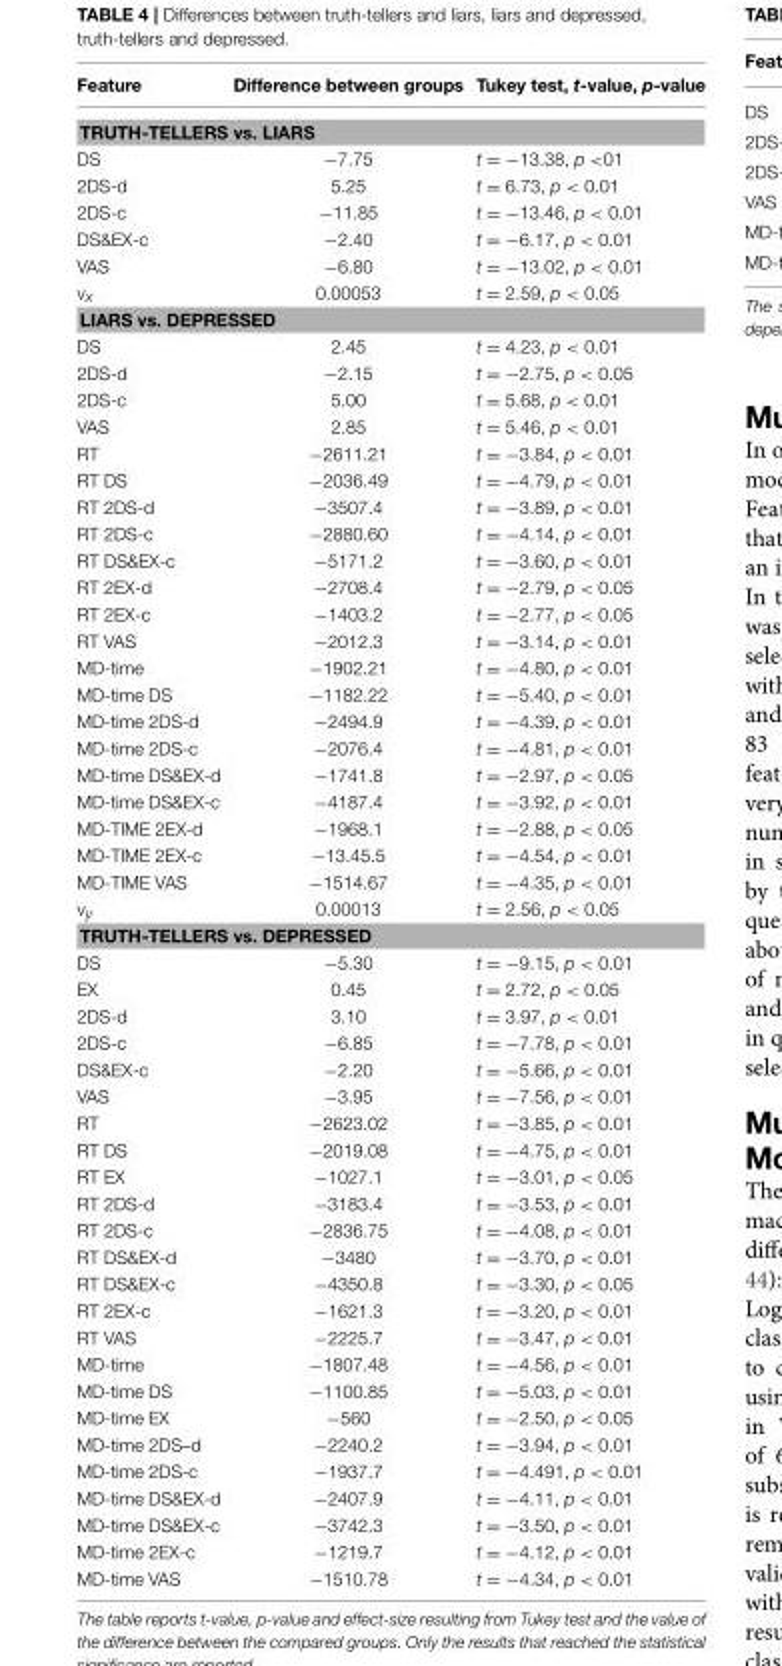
<table><thead><tr><td>Feature</td><td>Difference between groups</td><td>Tukey test, t-value, p-value</td></tr></thead><tbody><tr><td colspan="3">TRUTH-TELLERS vs. LIARS</td></tr><tr><td>DS</td><td>−7.75</td><td>t = −13.38, p &lt;01</td></tr><tr><td>2DS-d</td><td>5.25</td><td>t = 6.73, p &lt; 0.01</td></tr><tr><td>2DS-c</td><td>−11.85</td><td>t = −13.46, p &lt; 0.01</td></tr><tr><td>DS&amp;EX-c</td><td>−2.40</td><td>t = −6.17, p &lt; 0.01</td></tr><tr><td>VAS</td><td>−6.80</td><td>t = −13.02, p &lt; 0.01</td></tr><tr><td>vx</td><td>0.00053</td><td>t = 2.59, p &lt; 0.05</td></tr><tr><td colspan="3">LIARS vs. DEPRESSED</td></tr><tr><td>DS</td><td>2.45</td><td>t = 4.23, p &lt; 0.01</td></tr><tr><td>2DS-d</td><td>−2.15</td><td>t = −2.75, p &lt; 0.05</td></tr><tr><td>2DS-c</td><td>5.00</td><td>t = 5.68, p &lt; 0.01</td></tr><tr><td>VAS</td><td>2.85</td><td>t = 5.46, p &lt; 0.01</td></tr><tr><td>RT</td><td>−2611.21</td><td>t = −3.84, p &lt; 0.01</td></tr><tr><td>RT DS</td><td>−2036.49</td><td>t = −4.79, p &lt; 0.01</td></tr><tr><td>RT 2DS-d</td><td>−3507.4</td><td>t = −3.89, p &lt; 0.01</td></tr><tr><td>RT 2DS-c</td><td>−2880.60</td><td>t = −4.14, p &lt; 0.01</td></tr><tr><td>RT DS&amp;EX-c</td><td>−5171.2</td><td>t = −3.60, p &lt; 0.01</td></tr><tr><td>RT 2EX-d</td><td>−2708.4</td><td>t = −2.79, p &lt; 0.05</td></tr><tr><td>RT 2EX-c</td><td>−1403.2</td><td>t = −2.77, p &lt; 0.05</td></tr><tr><td>RT VAS</td><td>−2012.3</td><td>t = −3.14, p &lt; 0.01</td></tr><tr><td>MD-time</td><td>−1902.21</td><td>t = −4.80, p &lt; 0.01</td></tr><tr><td>MD-time DS</td><td>−1182.22</td><td>t = −5.40, p &lt; 0.01</td></tr><tr><td>MD-time 2DS-d</td><td>−2494.9</td><td>t = −4.39, p &lt; 0.01</td></tr><tr><td>MD-time 2DS-c</td><td>−2076.4</td><td>t = −4.81, p &lt; 0.01</td></tr><tr><td>MD-time DS&amp;EX-d</td><td>−1741.8</td><td>t = −2.97, p &lt; 0.05</td></tr><tr><td>MD-time DS&amp;EX-c</td><td>−4187.4</td><td>t = −3.92, p &lt; 0.01</td></tr><tr><td>MD-TIME 2EX-d</td><td>−1968.1</td><td>t = −2.88, p &lt; 0.05</td></tr><tr><td>MD-TIME 2EX-c</td><td>−13.45.5</td><td>t = −4.54, p &lt; 0.01</td></tr><tr><td>MD-TIME VAS</td><td>−1514.67</td><td>t = −4.35, p &lt; 0.01</td></tr><tr><td>vy</td><td>0.00013</td><td>t = 2.56, p &lt; 0.05</td></tr><tr><td colspan="3">TRUTH-TELLERS vs. DEPRESSED</td></tr><tr><td>DS</td><td>−5.30</td><td>t = −9.15, p &lt; 0.01</td></tr><tr><td>EX</td><td>0.45</td><td>t = 2.72, p &lt; 0.05</td></tr><tr><td>2DS-d</td><td>3.10</td><td>t = 3.97, p &lt; 0.01</td></tr><tr><td>2DS-c</td><td>−6.85</td><td>t = −7.78, p &lt; 0.01</td></tr><tr><td>DS&amp;EX-c</td><td>−2.20</td><td>t = −5.66, p &lt; 0.01</td></tr><tr><td>VAS</td><td>−3.95</td><td>t = −7.56, p &lt; 0.01</td></tr><tr><td>RT</td><td>−2623.02</td><td>t = −3.85, p &lt; 0.01</td></tr><tr><td>RT DS</td><td>−2019.08</td><td>t = −4.75, p &lt; 0.01</td></tr><tr><td>RT EX</td><td>−1027.1</td><td>t = −3.01, p &lt; 0.05</td></tr><tr><td>RT 2DS-d</td><td>−3183.4</td><td>t = −3.53, p &lt; 0.01</td></tr><tr><td>RT 2DS-c</td><td>−2836.75</td><td>t = −4.08, p &lt; 0.01</td></tr><tr><td>RT DS&amp;EX-d</td><td>−3480</td><td>t = −3.70, p &lt; 0.01</td></tr><tr><td>RT DS&amp;EX-c</td><td>−4350.8</td><td>t = −3.30, p &lt; 0.05</td></tr><tr><td>RT 2EX-c</td><td>−1621.3</td><td>t = −3.20, p &lt; 0.01</td></tr><tr><td>RT VAS</td><td>−2225.7</td><td>t = −3.47, p &lt; 0.01</td></tr><tr><td>MD-time</td><td>−1807.48</td><td>t = −4.56, p &lt; 0.01</td></tr><tr><td>MD-time DS</td><td>−1100.85</td><td>t = −5.03, p &lt; 0.01</td></tr><tr><td>MD-time EX</td><td>−560</td><td>t = −2.50, p &lt; 0.05</td></tr><tr><td>MD-time 2DS–d</td><td>−2240.2</td><td>t = −3.94, p &lt; 0.01</td></tr><tr><td>MD-time 2DS-c</td><td>−1937.7</td><td>t = −4.491, p &lt; 0.01</td></tr><tr><td>MD-time DS&amp;EX-d</td><td>−2407.9</td><td>t = −4.11, p &lt; 0.01</td></tr><tr><td>MD-time DS&amp;EX-c</td><td>−3742.3</td><td>t = −3.50, p &lt; 0.01</td></tr><tr><td>MD-time 2EX-c</td><td>−1219.7</td><td>t = −4.12, p &lt; 0.01</td></tr><tr><td>MD-time VAS</td><td>−1510.78</td><td>t = −4.34, p &lt; 0.01</td></tr></tbody></table>